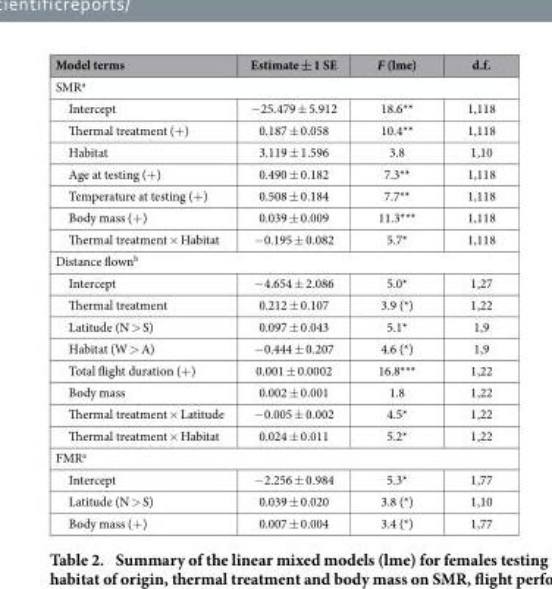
<table><thead><tr><td>Model terms</td><td>Estimate ± 1 SE</td><td>F (lme)</td><td>d.f.</td></tr></thead><tbody><tr><td colspan="4">SMR<sup>a</sup></td></tr><tr><td>Intercept</td><td>− 25.479 ± 5.912</td><td>18.6**</td><td>1,118</td></tr><tr><td>Thermal treatment (+ )</td><td>0.187 ± 0.058</td><td>10.4**</td><td>1,118</td></tr><tr><td>Habitat</td><td>3.119 ± 1.596</td><td>3.8</td><td>1,10</td></tr><tr><td>Age at testing (+ )</td><td>0.490 ± 0.182</td><td>7.3**</td><td>1,118</td></tr><tr><td>Temperature at testing (+ )</td><td>0.508 ± 0.184</td><td>7.7**</td><td>1,118</td></tr><tr><td>Body mass (+ )</td><td>0.039 ± 0.009</td><td>11.3***</td><td>1,118</td></tr><tr><td>Thermal treatment × Habitat</td><td>− 0.195 ± 0.082</td><td>5.7*</td><td>1,118</td></tr><tr><td colspan="4">Distance flown<sup>b</sup></td></tr><tr><td>Intercept</td><td>− 4.654 ± 2.086</td><td>5.0*</td><td>1,27</td></tr><tr><td>Thermal treatment</td><td>0.212 ± 0.107</td><td>3.9 (*)</td><td>1,22</td></tr><tr><td>Latitude (N &gt; S)</td><td>0.097 ± 0.043</td><td>5.1*</td><td>1,9</td></tr><tr><td>Habitat (W &gt; A)</td><td>− 0.444 ± 0.207</td><td>4.6 (*)</td><td>1,9</td></tr><tr><td>Total flight duration (+ )</td><td>0.001 ± 0.0002</td><td>16.8***</td><td>1,22</td></tr><tr><td>Body mass</td><td>0.002 ± 0.001</td><td>1.8</td><td>1,22</td></tr><tr><td>Thermal treatment × Latitude</td><td>− 0.005 ± 0.002</td><td>4.5*</td><td>1,22</td></tr><tr><td>Thermal treatment × Habitat</td><td>0.024 ± 0.011</td><td>5.2*</td><td>1,22</td></tr><tr><td colspan="4">FMR<sup>a</sup></td></tr><tr><td>Intercept</td><td>− 2.256 ± 0.984</td><td>5.3*</td><td>1,77</td></tr><tr><td>Latitude (N &gt; S)</td><td>0.039 ± 0.020</td><td>3.8 (*)</td><td>1,10</td></tr><tr><td>Body mass (+ )</td><td>0.007 ± 0.004</td><td>3.4 (*)</td><td>1,77</td></tr></tbody></table>